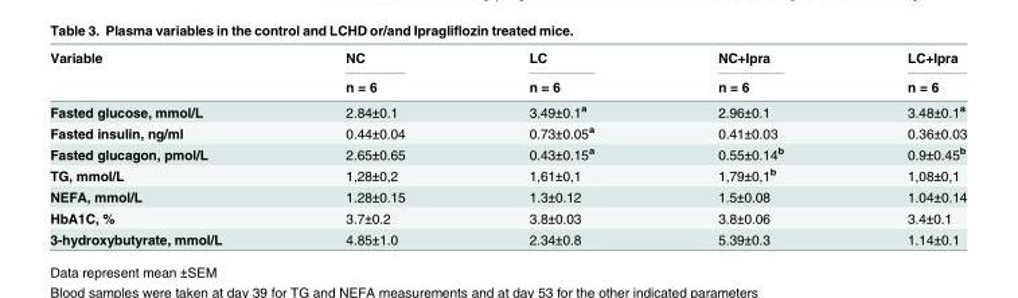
<table><thead><tr><td rowspan="2">Variable</td><td rowspan="2">NC n = 6</td><td rowspan="2">LC n = 6</td><td rowspan="2">NC+Ipra n = 6</td><td rowspan="2">LC+Ipra n = 6</td></tr><tr></tr></thead><tbody><tr><td>Fasted glucose, mmol/L</td><td>2.84±0.1</td><td>3.49±0.1<sup>a</sup></td><td>2.96±0.1</td><td>3.48±0.1<sup>a</sup></td></tr><tr><td>Fasted insulin, ng/ml</td><td>0.44±0.04</td><td>0.73±0.05<sup>a</sup></td><td>0.41±0.03</td><td>0.36±0.03</td></tr><tr><td>Fasted glucagon, pmol/L</td><td>2.65±0.65</td><td>0.43±0.15<sup>a</sup></td><td>0.55±0.14<sup>b</sup></td><td>0.9±0.45<sup>b</sup></td></tr><tr><td>TG, mmol/L</td><td>1,28±0,2</td><td>1,61±0,1</td><td>1,79±0,1<sup>b</sup></td><td>1,08±0,1</td></tr><tr><td>NEFA, mmol/L</td><td>1.28±0.15</td><td>1.3±0.12</td><td>1.5±0.08</td><td>1.04±0.14</td></tr><tr><td>HbA1C, %</td><td>3.7±0.2</td><td>3.8±0.03</td><td>3.8±0.06</td><td>3.4±0.1</td></tr><tr><td>3-hydroxybutyrate, mmol/L</td><td>4.85±1.0</td><td>2.34±0.8</td><td>5.39±0.3</td><td>1.14±0.1</td></tr></tbody></table>